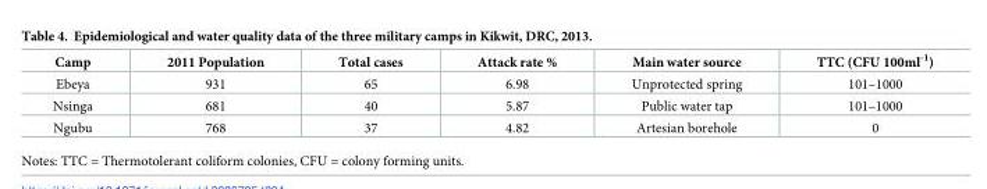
<table><thead><tr><td>Camp</td><td>2011 Population</td><td>Total cases</td><td>Attack rate %</td><td>Main water source</td><td>TTC (CFU 100ml<sup>-1</sup>)</td></tr></thead><tbody><tr><td>Ebeya</td><td>931</td><td>65</td><td>6.98</td><td>Unprotected spring</td><td>101–1000</td></tr><tr><td>Nsinga</td><td>681</td><td>40</td><td>5.87</td><td>Public water tap</td><td>101–1000</td></tr><tr><td>Ngubu</td><td>768</td><td>37</td><td>4.82</td><td>Artesian borehole</td><td>0</td></tr></tbody></table>